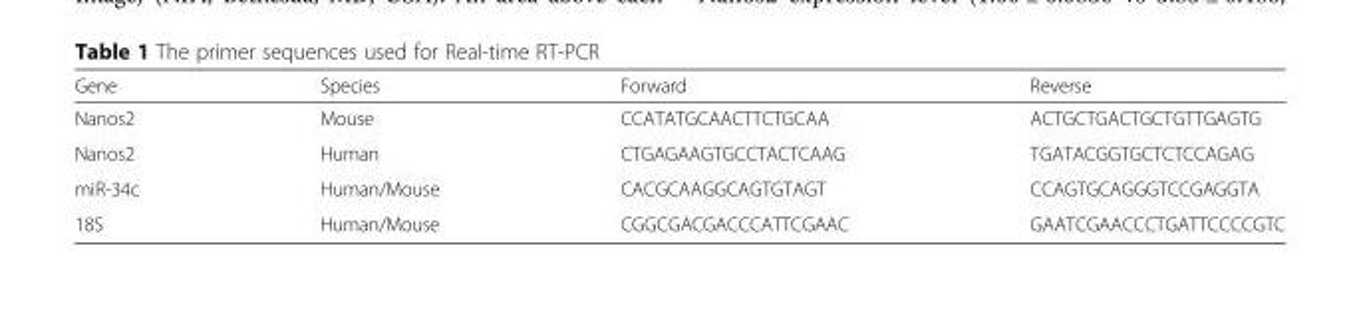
<table><thead><tr><td>Gene</td><td>Species</td><td>Forward</td><td>Reverse</td></tr></thead><tbody><tr><td>Nanos2</td><td>Mouse</td><td>CCATATGCAACTTCTGCAA</td><td>ACTGCTGACTGCTGTTGAGTG</td></tr><tr><td>Nanos2</td><td>Human</td><td>CTGAGAAGTGCCTACTCAAG</td><td>TGATACGGTGCTCTCCAGAG</td></tr><tr><td>miR-34c</td><td>Human/Mouse</td><td>CACGCAAGGCAGTGTAGT</td><td>CCAGTGCAGGGTCCGAGGTA</td></tr><tr><td>18S</td><td>Human/Mouse</td><td>CGGCGACGACCCATTCGAAC</td><td>GAATCGAACCCTGATTCCCCGTC</td></tr></tbody></table>